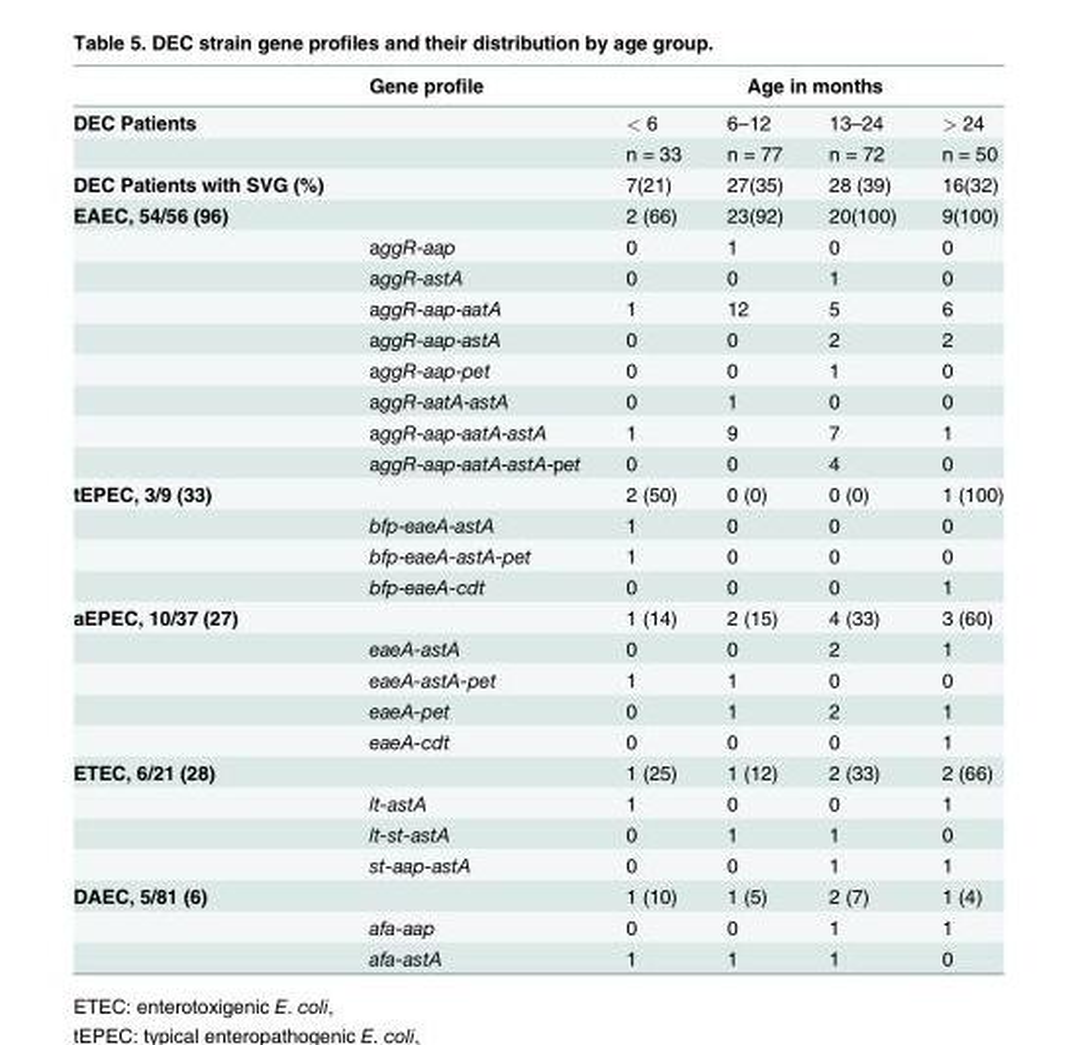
<table><thead><tr><td rowspan="2">DEC Patients</td><td rowspan="2">Gene profile</td><td colspan="4">Age in months</td></tr><tr><td>&lt; 6</td><td>6–12</td><td>13–24</td><td>&gt; 24</td></tr></thead><tbody><tr><td></td><td></td><td>n = 33</td><td>n = 77</td><td>n = 72</td><td>n = 50</td></tr><tr><td>DEC Patients with SVG (%)</td><td></td><td>7(21)</td><td>27(35)</td><td>28 (39)</td><td>16(32)</td></tr><tr><td rowspan="9">EAEC, 54/56 (96)</td><td></td><td>2 (66)</td><td>23(92)</td><td>20(100)</td><td>9(100)</td></tr><tr><td>aggR-aap</td><td>0</td><td>1</td><td>0</td><td>0</td></tr><tr><td>aggR-astA</td><td>0</td><td>0</td><td>1</td><td>0</td></tr><tr><td>aggR-aap-aatA</td><td>1</td><td>12</td><td>5</td><td>6</td></tr><tr><td>aggR-aap-astA</td><td>0</td><td>0</td><td>2</td><td>2</td></tr><tr><td>aggR-aap-pet</td><td>0</td><td>0</td><td>1</td><td>0</td></tr><tr><td>aggR-aatA-astA</td><td>0</td><td>1</td><td>0</td><td>0</td></tr><tr><td>aggR-aap-aatA-astA</td><td>1</td><td>9</td><td>7</td><td>1</td></tr><tr><td>aggR-aap-aatA-astA-pet</td><td>0</td><td>0</td><td>4</td><td>0</td></tr><tr><td rowspan="4">tEPEC, 3/9 (33)</td><td></td><td>2 (50)</td><td>0 (0)</td><td>0 (0)</td><td>1 (100)</td></tr><tr><td>bfp-eaeA-astA</td><td>1</td><td>0</td><td>0</td><td>0</td></tr><tr><td>bfp-eaeA-astA-pet</td><td>1</td><td>0</td><td>0</td><td>0</td></tr><tr><td>bfp-eaeA-cdt</td><td>0</td><td>0</td><td>0</td><td>1</td></tr><tr><td rowspan="5">aEPEC, 10/37 (27)</td><td></td><td>1 (14)</td><td>2 (15)</td><td>4 (33)</td><td>3 (60)</td></tr><tr><td>eaeA-astA</td><td>0</td><td>0</td><td>2</td><td>1</td></tr><tr><td>eaeA-astA-pet</td><td>1</td><td>1</td><td>0</td><td>0</td></tr><tr><td>eaeA-pet</td><td>0</td><td>1</td><td>2</td><td>1</td></tr><tr><td>eaeA-cdt</td><td>0</td><td>0</td><td>0</td><td>1</td></tr><tr><td rowspan="4">ETEC, 6/21 (28)</td><td></td><td>1 (25)</td><td>1 (12)</td><td>2 (33)</td><td>2 (66)</td></tr><tr><td>lt-astA</td><td>1</td><td>0</td><td>0</td><td>1</td></tr><tr><td>lt-st-astA</td><td>0</td><td>1</td><td>1</td><td>0</td></tr><tr><td>st-aap-astA</td><td>0</td><td>0</td><td>1</td><td>1</td></tr><tr><td rowspan="3">DAEC, 5/81 (6)</td><td></td><td>1 (10)</td><td>1 (5)</td><td>2 (7)</td><td>1 (4)</td></tr><tr><td>afa-aap</td><td>0</td><td>0</td><td>1</td><td>1</td></tr><tr><td>afa-astA</td><td>1</td><td>1</td><td>1</td><td>0</td></tr></tbody></table>